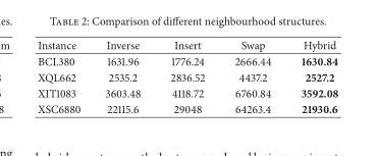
<table><thead><tr><td>Instance</td><td>Inverse</td><td>Insert</td><td>Swap</td><td>Hybrid</td></tr></thead><tbody><tr><td>BCL380</td><td>1631.96</td><td>1776.24</td><td>2666.44</td><td>1630.84</td></tr><tr><td>XQL662</td><td>2535.2</td><td>2836.52</td><td>4437.2</td><td>2527.2</td></tr><tr><td>XIT1083</td><td>3603.48</td><td>4118.72</td><td>6760.84</td><td>3592.08</td></tr><tr><td>XSC6880</td><td>22115.6</td><td>29048</td><td>64263.4</td><td>21930.6</td></tr></tbody></table>